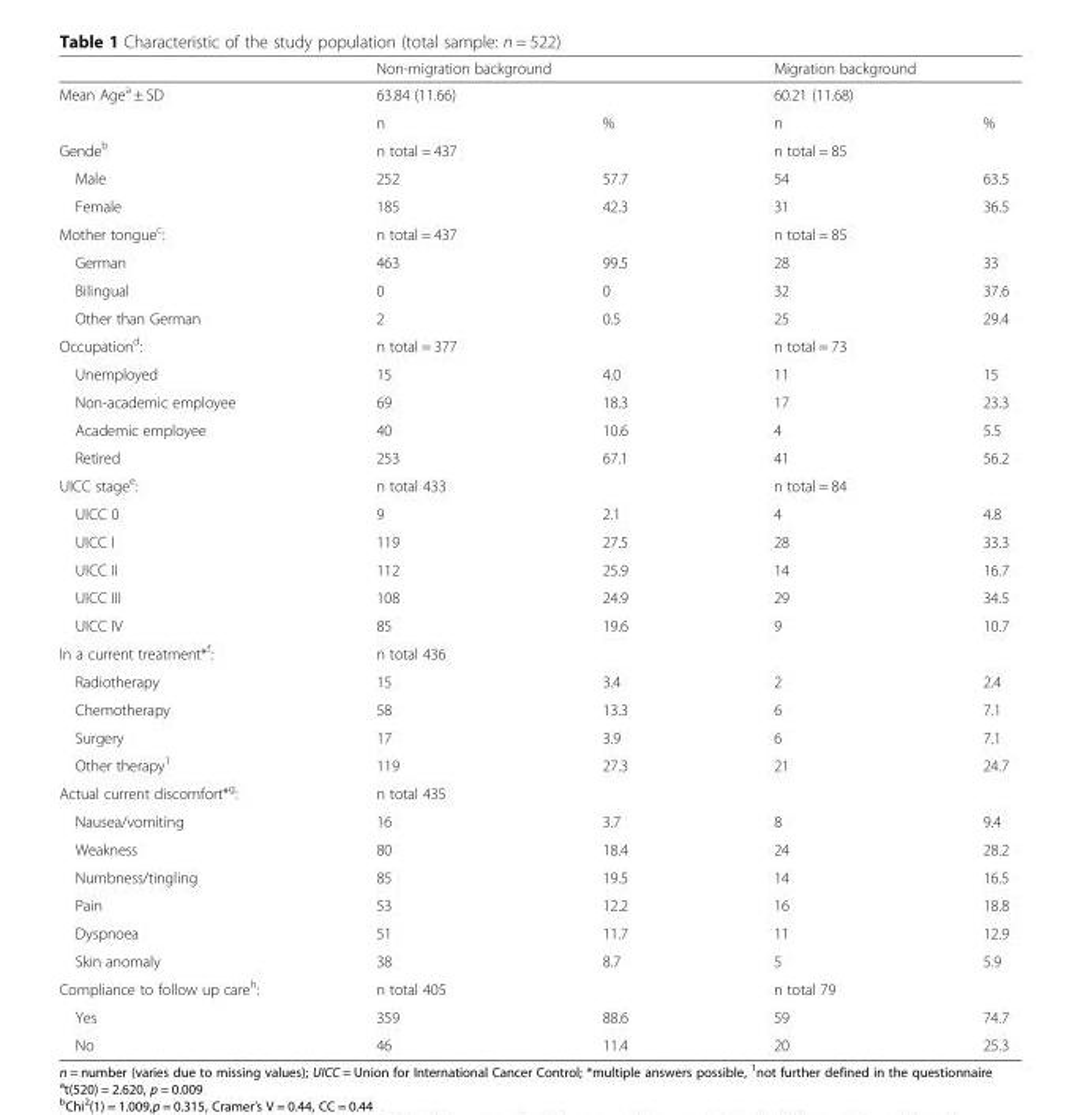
<table><thead><tr><td rowspan="2">Mean Age<sup>a</sup> ± SD</td><td colspan="2">Non-migration background</td><td colspan="2">Migration background</td></tr><tr><td>63.84 (11.66)</td><td></td><td>60.21 (11.68)</td><td></td></tr></thead><tbody><tr><td></td><td>n</td><td>%</td><td>n</td><td>%</td></tr><tr><td>Gende<sup>b</sup></td><td>n total = 437</td><td></td><td>n total = 85</td><td></td></tr><tr><td>Male</td><td>252</td><td>57.7</td><td>54</td><td>63.5</td></tr><tr><td>Female</td><td>185</td><td>42.3</td><td>31</td><td>36.5</td></tr><tr><td>Mother tongue<sup>c</sup>:</td><td>n total = 437</td><td></td><td>n total = 85</td><td></td></tr><tr><td>German</td><td>463</td><td>99.5</td><td>28</td><td>33</td></tr><tr><td>Bilingual</td><td>0</td><td>0</td><td>32</td><td>37.6</td></tr><tr><td>Other than German</td><td>2</td><td>0.5</td><td>25</td><td>29.4</td></tr><tr><td>Occupation<sup>d</sup>:</td><td>n total = 377</td><td></td><td>n total = 73</td><td></td></tr><tr><td>Unemployed</td><td>15</td><td>4.0</td><td>11</td><td>15</td></tr><tr><td>Non-academic employee</td><td>69</td><td>18.3</td><td>17</td><td>23.3</td></tr><tr><td>Academic employee</td><td>40</td><td>10.6</td><td>4</td><td>5.5</td></tr><tr><td>Retired</td><td>253</td><td>67.1</td><td>41</td><td>56.2</td></tr><tr><td>UICC stage<sup>e</sup>:</td><td>n total 433</td><td></td><td>n total = 84</td><td></td></tr><tr><td>UICC 0</td><td>9</td><td>2.1</td><td>4</td><td>4.8</td></tr><tr><td>UICC I</td><td>119</td><td>27.5</td><td>28</td><td>33.3</td></tr><tr><td>UICC II</td><td>112</td><td>25.9</td><td>14</td><td>16.7</td></tr><tr><td>UICC III</td><td>108</td><td>24.9</td><td>29</td><td>34.5</td></tr><tr><td>UICC IV</td><td>85</td><td>19.6</td><td>9</td><td>10.7</td></tr><tr><td>In a current treatment*<sup>f</sup>:</td><td>n total 436</td><td></td><td></td><td></td></tr><tr><td>Radiotherapy</td><td>15</td><td>3.4</td><td>2</td><td>2.4</td></tr><tr><td>Chemotherapy</td><td>58</td><td>13.3</td><td>6</td><td>7.1</td></tr><tr><td>Surgery</td><td>17</td><td>3.9</td><td>6</td><td>7.1</td></tr><tr><td>Other therapy<sup>1</sup></td><td>119</td><td>27.3</td><td>21</td><td>24.7</td></tr><tr><td>Actual current discomfort*<sup>g</sup>:</td><td>n total 435</td><td></td><td></td><td></td></tr><tr><td>Nausea/vomiting</td><td>16</td><td>3.7</td><td>8</td><td>9.4</td></tr><tr><td>Weakness</td><td>80</td><td>18.4</td><td>24</td><td>28.2</td></tr><tr><td>Numbness/tingling</td><td>85</td><td>19.5</td><td>14</td><td>16.5</td></tr><tr><td>Pain</td><td>53</td><td>12.2</td><td>16</td><td>18.8</td></tr><tr><td>Dyspnoea</td><td>51</td><td>11.7</td><td>11</td><td>12.9</td></tr><tr><td>Skin anomaly</td><td>38</td><td>8.7</td><td>5</td><td>5.9</td></tr><tr><td>Compliance to follow up care<sup>h</sup>:</td><td>n total 405</td><td></td><td>n total 79</td><td></td></tr><tr><td>Yes</td><td>359</td><td>88.6</td><td>59</td><td>74.7</td></tr><tr><td>No</td><td>46</td><td>11.4</td><td>20</td><td>25.3</td></tr></tbody></table>